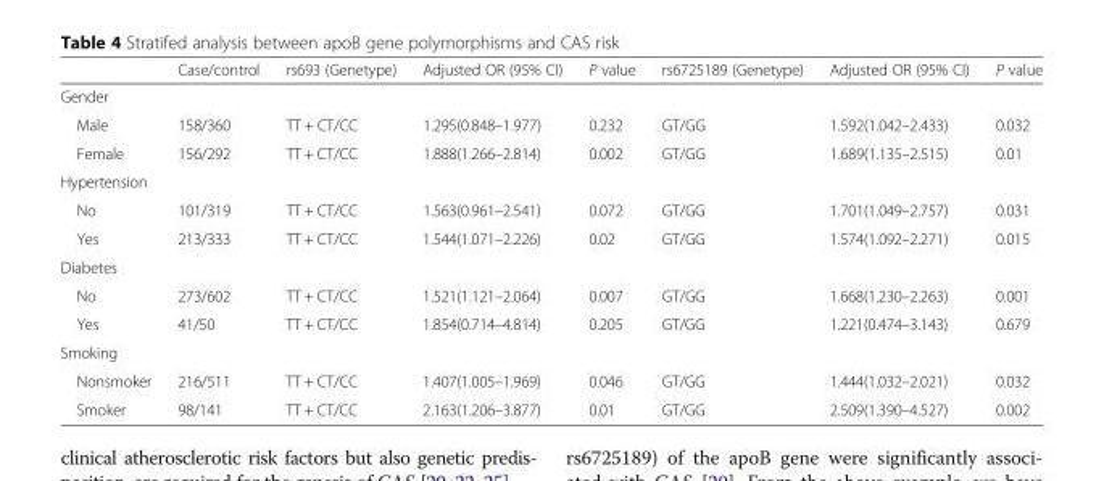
<table><thead><tr><td></td><td>Case/control</td><td>rs693 (Genetype)</td><td>Adjusted OR (95% CI)</td><td>P value</td><td>rs6725189 (Genetype)</td><td>Adjusted OR (95% CI)</td><td>P value</td></tr></thead><tbody><tr><td colspan="8">Gender</td></tr><tr><td>Male</td><td>158/360</td><td>TT + CT/CC</td><td>1.295(0.848–1.977)</td><td>0.232</td><td>GT/GG</td><td>1.592(1.042–2.433)</td><td>0.032</td></tr><tr><td>Female</td><td>156/292</td><td>TT + CT/CC</td><td>1.888(1.266–2.814)</td><td>0.002</td><td>GT/GG</td><td>1.689(1.135–2.515)</td><td>0.01</td></tr><tr><td colspan="8">Hypertension</td></tr><tr><td>No</td><td>101/319</td><td>TT + CT/CC</td><td>1.563(0.961–2.541)</td><td>0.072</td><td>GT/GG</td><td>1.701(1.049–2.757)</td><td>0.031</td></tr><tr><td>Yes</td><td>213/333</td><td>TT + CT/CC</td><td>1.544(1.071–2.226)</td><td>0.02</td><td>GT/GG</td><td>1.574(1.092–2.271)</td><td>0.015</td></tr><tr><td colspan="8">Diabetes</td></tr><tr><td>No</td><td>273/602</td><td>TT + CT/CC</td><td>1.521(1.121–2.064)</td><td>0.007</td><td>GT/GG</td><td>1.668(1.230–2.263)</td><td>0.001</td></tr><tr><td>Yes</td><td>41/50</td><td>TT + CT/CC</td><td>1.854(0.714–4.814)</td><td>0.205</td><td>GT/GG</td><td>1.221(0.474–3.143)</td><td>0.679</td></tr><tr><td colspan="8">Smoking</td></tr><tr><td>Nonsmoker</td><td>216/511</td><td>TT + CT/CC</td><td>1.407(1.005–1.969)</td><td>0.046</td><td>GT/GG</td><td>1.444(1.032–2.021)</td><td>0.032</td></tr><tr><td>Smoker</td><td>98/141</td><td>TT + CT/CC</td><td>2.163(1.206–3.877)</td><td>0.01</td><td>GT/GG</td><td>2.509(1.390–4.527)</td><td>0.002</td></tr></tbody></table>